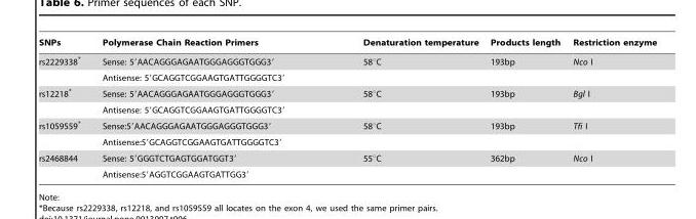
<table><thead><tr><td>SNPs</td><td>Polymerase Chain Reaction Primers</td><td>Denaturation temperature</td><td>Products length</td><td>Restriction enzyme</td></tr></thead><tbody><tr><td rowspan="2">rs2229338*</td><td>Sense: 5′AACAGGGAGAATGGGAGGGTGGG3′</td><td>58°C</td><td>193bp</td><td>Nco I</td></tr><tr><td>Antisense: 5′GCAGGTCGGAAGTGATTGGGGTC3′</td><td></td><td></td><td></td></tr><tr><td rowspan="2">rs12218*</td><td>Sense: 5′AACAGGGAGAATGGGAGGGTGGG3′</td><td>58°C</td><td>193bp</td><td>Bgl I</td></tr><tr><td>Antisense: 5′GCAGGTCGGAAGTGATTGGGGTC3′</td><td></td><td></td><td></td></tr><tr><td rowspan="2">rs1059559*</td><td>Sense:5′AACAGGGAGAATGGGAGGGTGGG3′</td><td>58°C</td><td>193bp</td><td>Tfi I</td></tr><tr><td>Antisense:5′GCAGGTCGGAAGTGATTGGGGTC3′</td><td></td><td></td><td></td></tr><tr><td rowspan="2">rs2468844</td><td>Sense: 5′GGGTCTGAGTGGATGGT3′</td><td>55°C</td><td>362bp</td><td>Nco I</td></tr><tr><td>Antisense:5′AGGTCGGAAGTGATTGG3′</td><td></td><td></td><td></td></tr></tbody></table>